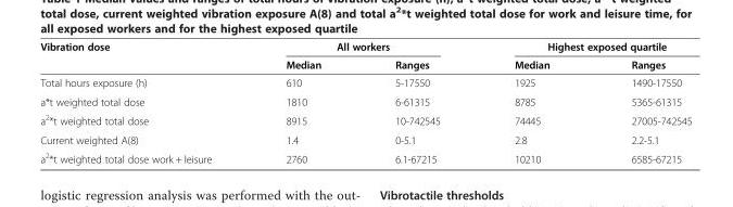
<table><thead><tr><td rowspan="2">Vibration dose</td><td colspan="2">All workers</td><td colspan="2">Highest exposed quartile</td></tr><tr><td>Median</td><td>Ranges</td><td>Median</td><td>Ranges</td></tr></thead><tbody><tr><td>Total hours exposure (h)</td><td>610</td><td>5-17550</td><td>1925</td><td>1490-17550</td></tr><tr><td>a*t weighted total dose</td><td>1810</td><td>6-61315</td><td>8785</td><td>5365-61315</td></tr><tr><td>a<sup>2</sup>*t weighted total dose</td><td>8915</td><td>10-742545</td><td>74445</td><td>27005-742545</td></tr><tr><td>Current weighted A(8)</td><td>1.4</td><td>0-5.1</td><td>2.8</td><td>2.2-5.1</td></tr><tr><td>a<sup>2</sup>*t weighted total dose work + leisure</td><td>2760</td><td>6.1-67215</td><td>10210</td><td>6585-67215</td></tr></tbody></table>